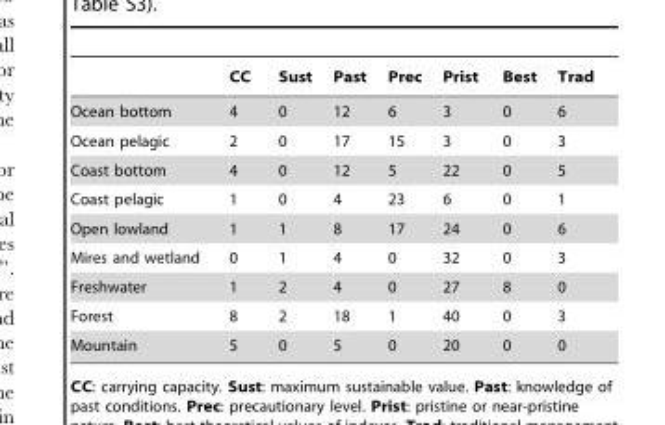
<table><thead><tr><td></td><td>CC</td><td>Sust</td><td>Past</td><td>Prec</td><td>Prist</td><td>Best</td><td>Trad</td></tr></thead><tbody><tr><td>Ocean bottom</td><td>4</td><td>0</td><td>12</td><td>6</td><td>3</td><td>0</td><td>6</td></tr><tr><td>Ocean pelagic</td><td>2</td><td>0</td><td>17</td><td>15</td><td>3</td><td>0</td><td>3</td></tr><tr><td>Coast bottom</td><td>4</td><td>0</td><td>12</td><td>5</td><td>22</td><td>0</td><td>5</td></tr><tr><td>Coast pelagic</td><td>1</td><td>0</td><td>4</td><td>23</td><td>6</td><td>0</td><td>1</td></tr><tr><td>Open lowland</td><td>1</td><td>1</td><td>8</td><td>17</td><td>24</td><td>0</td><td>6</td></tr><tr><td>Mires and wetland</td><td>0</td><td>1</td><td>4</td><td>0</td><td>32</td><td>0</td><td>3</td></tr><tr><td>Freshwater</td><td>1</td><td>2</td><td>4</td><td>0</td><td>27</td><td>8</td><td>0</td></tr><tr><td>Forest</td><td>8</td><td>2</td><td>18</td><td>1</td><td>40</td><td>0</td><td>3</td></tr><tr><td>Mountain</td><td>5</td><td>0</td><td>5</td><td>0</td><td>20</td><td>0</td><td>0</td></tr></tbody></table>